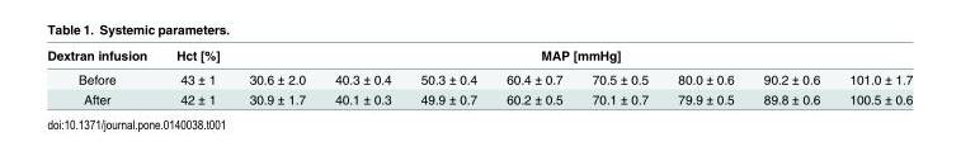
<table><thead><tr><td rowspan="2">Dextran infusion Before</td><td rowspan="2">Hct [%] 43 ± 1</td><td colspan="8">MAP [mmHg]</td></tr><tr><td>30.6 ± 2.0</td><td>40.3 ± 0.4</td><td>50.3 ± 0.4</td><td>60.4 ± 0.7</td><td>70.5 ± 0.5</td><td>80.0 ± 0.6</td><td>90.2 ± 0.6</td><td>101.0 ± 1.7</td></tr></thead><tbody><tr><td>After</td><td>42 ± 1</td><td>30.9 ± 1.7</td><td>40.1 ± 0.3</td><td>49.9 ± 0.7</td><td>60.2 ± 0.5</td><td>70.1 ± 0.7</td><td>79.9 ± 0.5</td><td>89.8 ± 0.6</td><td>100.5 ± 0.6</td></tr></tbody></table>